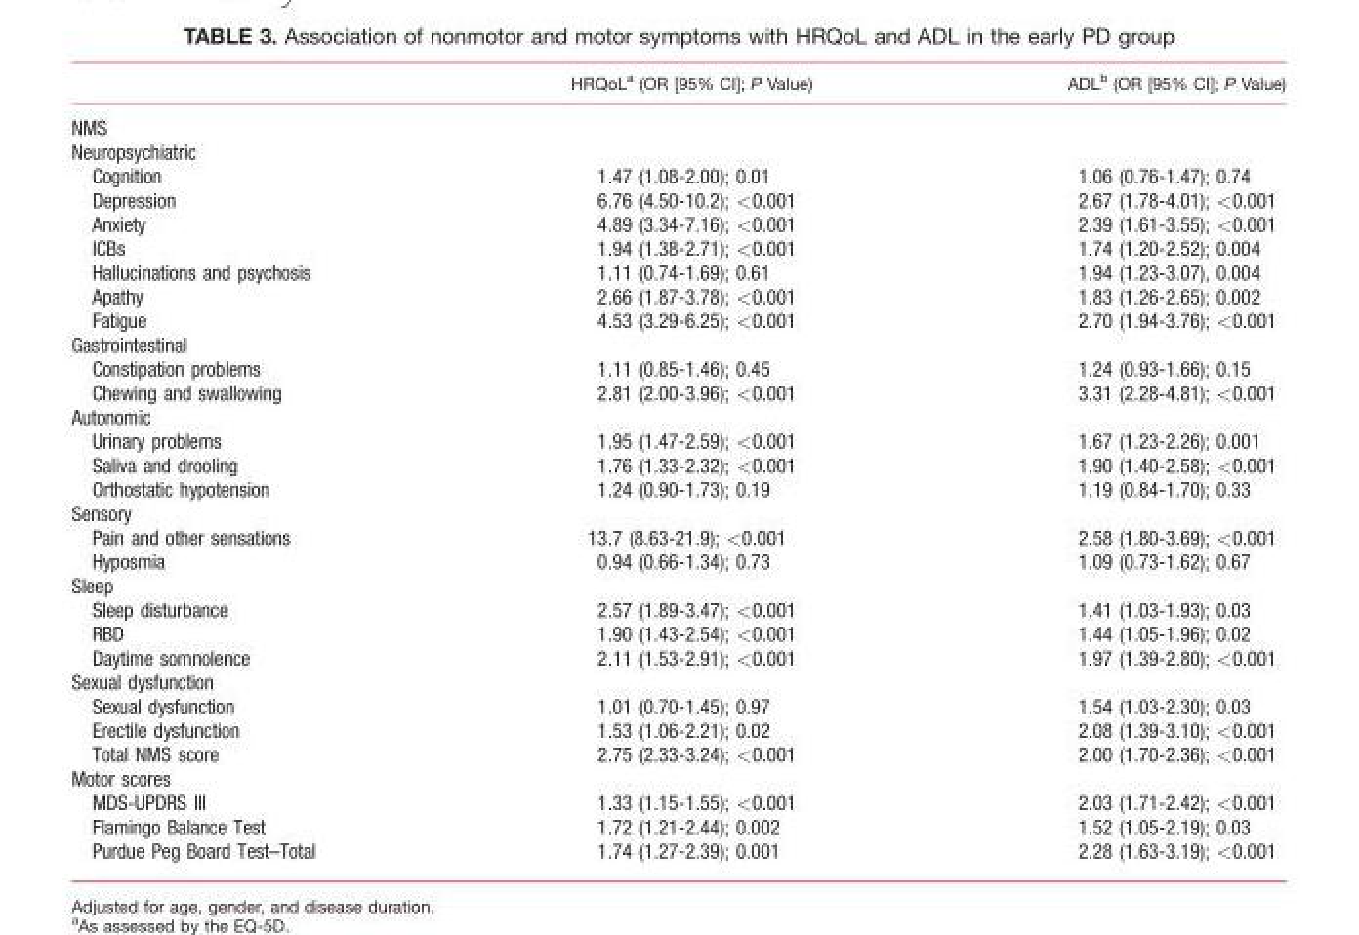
<table><thead><tr><td></td><td>HRQoL<sup>a</sup> (OR [95% CI]; P Value)</td><td>ADL<sup>b</sup> (OR [95% CI]; P Value)</td></tr></thead><tbody><tr><td colspan="3">NMS</td></tr><tr><td colspan="3">Neuropsychiatric</td></tr><tr><td>Cognition</td><td>1.47 (1.08-2.00); 0.01</td><td>1.06 (0.76-1.47); 0.74</td></tr><tr><td>Depression</td><td>6.76 (4.50-10.2); &lt;0.001</td><td>2.67 (1.78-4.01); &lt;0.001</td></tr><tr><td>Anxiety</td><td>4.89 (3.34-7.16); &lt;0.001</td><td>2.39 (1.61-3.55); &lt;0.001</td></tr><tr><td>ICBs</td><td>1.94 (1.38-2.71); &lt;0.001</td><td>1.74 (1.20-2.52); 0.004</td></tr><tr><td>Hallucinations and psychosis</td><td>1.11 (0.74-1.69); 0.61</td><td>1.94 (1.23-3.07), 0.004</td></tr><tr><td>Apathy</td><td>2.66 (1.87-3.78); &lt;0.001</td><td>1.83 (1.26-2.65); 0.002</td></tr><tr><td>Fatigue</td><td>4.53 (3.29-6.25); &lt;0.001</td><td>2.70 (1.94-3.76); &lt;0.001</td></tr><tr><td colspan="3">Gastrointestinal</td></tr><tr><td>Constipation problems</td><td>1.11 (0.85-1.46); 0.45</td><td>1.24 (0.93-1.66); 0.15</td></tr><tr><td>Chewing and swallowing</td><td>2.81 (2.00-3.96); &lt;0.001</td><td>3.31 (2.28-4.81); &lt;0.001</td></tr><tr><td colspan="3">Autonomic</td></tr><tr><td>Urinary problems</td><td>1.95 (1.47-2.59); &lt;0.001</td><td>1.67 (1.23-2.26); 0.001</td></tr><tr><td>Saliva and drooling</td><td>1.76 (1.33-2.32); &lt;0.001</td><td>1.90 (1.40-2.58); &lt;0.001</td></tr><tr><td>Orthostatic hypotension</td><td>1.24 (0.90-1.73); 0.19</td><td>1.19 (0.84-1.70); 0.33</td></tr><tr><td colspan="3">Sensory</td></tr><tr><td>Pain and other sensations</td><td>13.7 (8.63-21.9); &lt;0.001</td><td>2.58 (1.80-3.69); &lt;0.001</td></tr><tr><td>Hyposmia</td><td>0.94 (0.66-1.34); 0.73</td><td>1.09 (0.73-1.62); 0.67</td></tr><tr><td colspan="3">Sleep</td></tr><tr><td>Sleep disturbance</td><td>2.57 (1.89-3.47); &lt;0.001</td><td>1.41 (1.03-1.93); 0.03</td></tr><tr><td>RBD</td><td>1.90 (1.43-2.54); &lt;0.001</td><td>1.44 (1.05-1.96); 0.02</td></tr><tr><td>Daytime somnolence</td><td>2.11 (1.53-2.91); &lt;0.001</td><td>1.97 (1.39-2.80); &lt;0.001</td></tr><tr><td colspan="3">Sexual dysfunction</td></tr><tr><td>Sexual dysfunction</td><td>1.01 (0.70-1.45); 0.97</td><td>1.54 (1.03-2.30); 0.03</td></tr><tr><td>Erectile dysfunction</td><td>1.53 (1.06-2.21); 0.02</td><td>2.08 (1.39-3.10); &lt;0.001</td></tr><tr><td>Total NMS score</td><td>2.75 (2.33-3.24); &lt;0.001</td><td>2.00 (1.70-2.36); &lt;0.001</td></tr><tr><td colspan="3">Motor scores</td></tr><tr><td>MDS-UPDRS III</td><td>1.33 (1.15-1.55); &lt;0.001</td><td>2.03 (1.71-2.42); &lt;0.001</td></tr><tr><td>Flamingo Balance Test</td><td>1.72 (1.21-2.44); 0.002</td><td>1.52 (1.05-2.19); 0.03</td></tr><tr><td>Purdue Peg Board Test–Total</td><td>1.74 (1.27-2.39); 0.001</td><td>2.28 (1.63-3.19); &lt;0.001</td></tr></tbody></table>